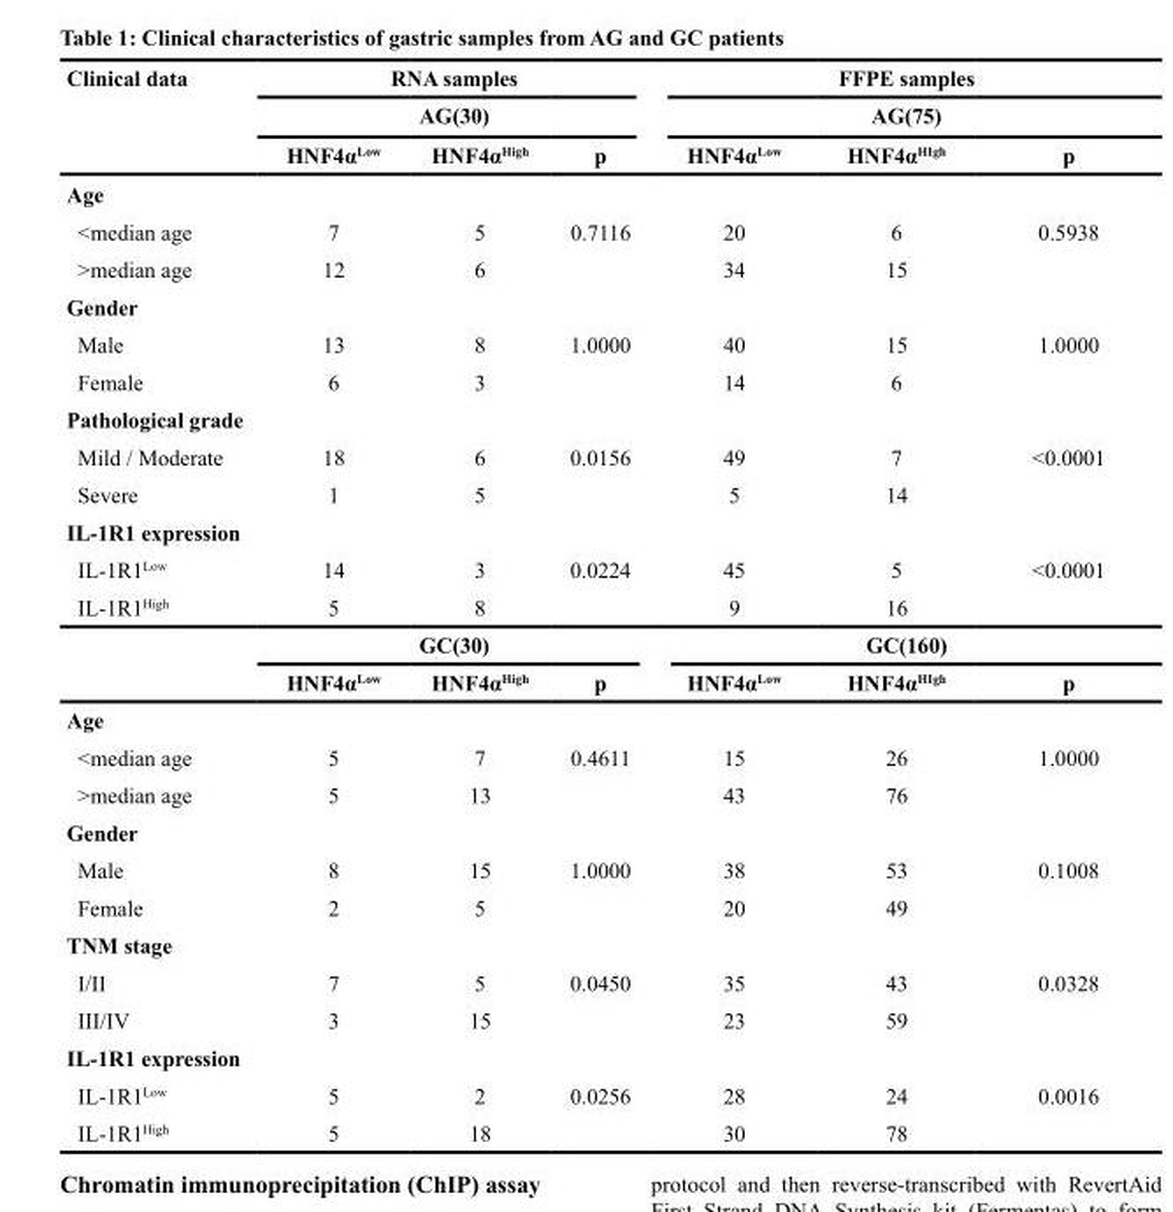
<table><thead><tr><td rowspan="3">Clinical data</td><td rowspan="2" colspan="3">RNA samples AG(30)</td><td rowspan="2" colspan="3">FFPE samples AG(75)</td></tr><tr></tr><tr><td>HNF4αLow</td><td>HNF4α<sup>High</sup></td><td>p</td><td>HNF4α<sup>Low</sup></td><td>HNF4α<sup>HIgh</sup></td><td>p</td></tr></thead><tbody><tr><td colspan="7">Age</td></tr><tr><td>&lt;median age</td><td>7</td><td>5</td><td>0.7116</td><td>20</td><td>6</td><td>0.5938</td></tr><tr><td>&gt;median age</td><td>12</td><td>6</td><td></td><td>34</td><td>15</td><td></td></tr><tr><td colspan="7">Gender</td></tr><tr><td>Male</td><td>13</td><td>8</td><td>1.0000</td><td>40</td><td>15</td><td>1.0000</td></tr><tr><td>Female</td><td>6</td><td>3</td><td></td><td>14</td><td>6</td><td></td></tr><tr><td colspan="7">Pathological grade</td></tr><tr><td>Mild / Moderate</td><td>18</td><td>6</td><td>0.0156</td><td>49</td><td>7</td><td>&lt;0.0001</td></tr><tr><td>Severe</td><td>1</td><td>5</td><td></td><td>5</td><td>14</td><td></td></tr><tr><td colspan="7">IL-1R1 expression</td></tr><tr><td>IL-1R1<sup>Low</sup></td><td>14</td><td>3</td><td>0.0224</td><td>45</td><td>5</td><td>&lt;0.0001</td></tr><tr><td rowspan="3">IL-1R1<sup>High</sup></td><td>5</td><td>8</td><td></td><td>9</td><td>16</td><td></td></tr><tr><td colspan="3">GC(30)</td><td colspan="3">GC(160)</td></tr><tr><td>HNF4α<sup>Low</sup></td><td>HNF4α<sup>High</sup></td><td>p</td><td>HNF4α<sup>Low</sup></td><td>HNF4α<sup>HIgh</sup></td><td>p</td></tr><tr><td colspan="7">Age</td></tr><tr><td>&lt;median age</td><td>5</td><td>7</td><td>0.4611</td><td>15</td><td>26</td><td>1.0000</td></tr><tr><td>&gt;median age</td><td>5</td><td>13</td><td></td><td>43</td><td>76</td><td></td></tr><tr><td colspan="7">Gender</td></tr><tr><td>Male</td><td>8</td><td>15</td><td>1.0000</td><td>38</td><td>53</td><td>0.1008</td></tr><tr><td>Female</td><td>2</td><td>5</td><td></td><td>20</td><td>49</td><td></td></tr><tr><td colspan="7">TNM stage</td></tr><tr><td>I/II</td><td>7</td><td>5</td><td>0.0450</td><td>35</td><td>43</td><td>0.0328</td></tr><tr><td>III/IV</td><td>3</td><td>15</td><td></td><td>23</td><td>59</td><td></td></tr><tr><td colspan="7">IL-1R1 expression</td></tr><tr><td>IL-1R1<sup>Low</sup></td><td>5</td><td>2</td><td>0.0256</td><td>28</td><td>24</td><td>0.0016</td></tr><tr><td>IL-1R1<sup>High</sup></td><td>5</td><td>18</td><td></td><td>30</td><td>78</td><td></td></tr></tbody></table>